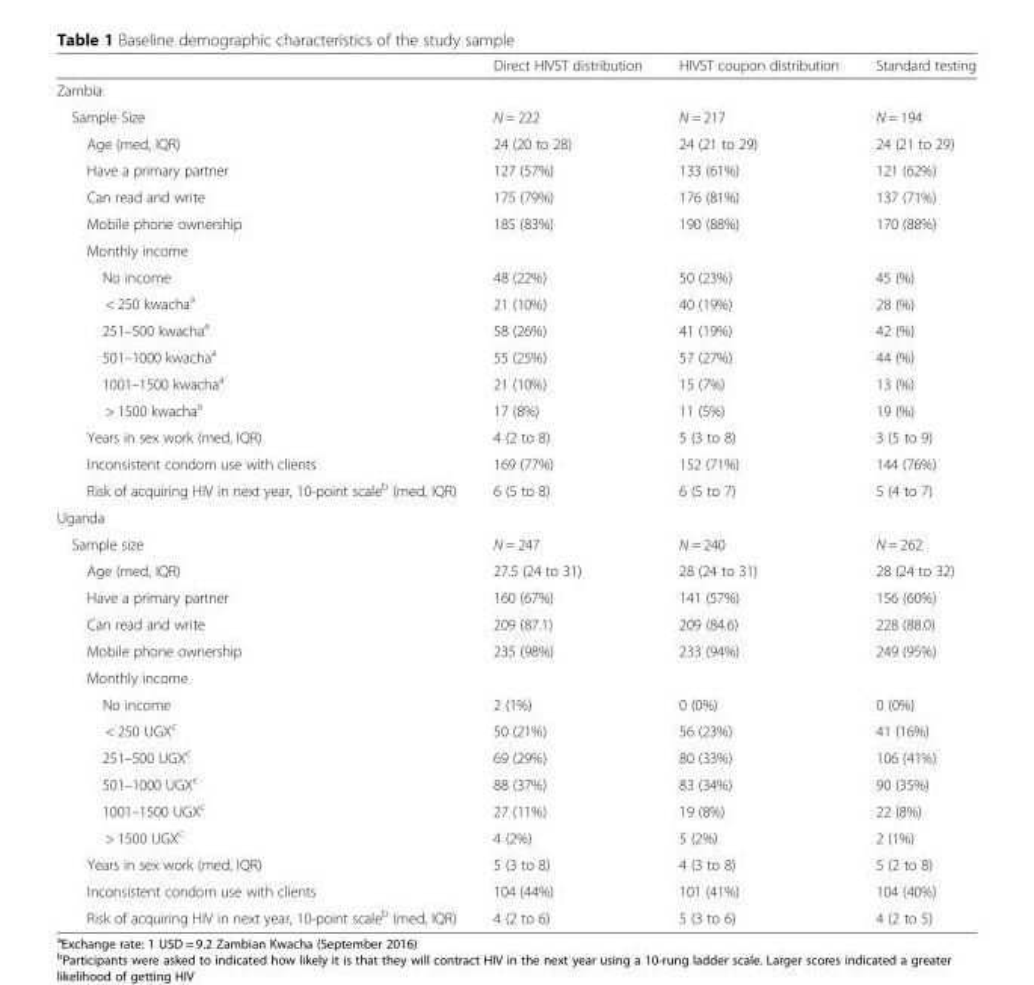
<table><thead><tr><td></td><td>Direct HIVST distribution</td><td>HIVST coupon distribution</td><td>Standard testing</td></tr></thead><tbody><tr><td colspan="4">Zambia</td></tr><tr><td>Sample Size</td><td>N = 222</td><td>N = 217</td><td>N = 194</td></tr><tr><td>Age (med, IQR)</td><td>24 (20 to 28)</td><td>24 (21 to 29)</td><td>24 (21 to 29)</td></tr><tr><td>Have a primary partner</td><td>127 (57%)</td><td>133 (61%)</td><td>121 (62%)</td></tr><tr><td>Can read and write</td><td>175 (79%)</td><td>176 (81%)</td><td>137 (71%)</td></tr><tr><td>Mobile phone ownership</td><td>185 (83%)</td><td>190 (88%)</td><td>170 (88%)</td></tr><tr><td colspan="4">Monthly income</td></tr><tr><td>No income</td><td>48 (22%)</td><td>50 (23%)</td><td>45 (%)</td></tr><tr><td>&lt; 250 kwacha<sup>a</sup></td><td>21 (10%)</td><td>40 (19%)</td><td>28 (%)</td></tr><tr><td>251–500 kwacha<sup>a</sup></td><td>58 (26%)</td><td>41 (19%)</td><td>42 (%)</td></tr><tr><td>501–1000 kwacha<sup>a</sup></td><td>55 (25%)</td><td>57 (27%)</td><td>44 (%)</td></tr><tr><td>1001–1500 kwacha<sup>a</sup></td><td>21 (10%)</td><td>15 (7%)</td><td>13 (%)</td></tr><tr><td>&gt; 1500 kwacha<sup>a</sup></td><td>17 (8%)</td><td>11 (5%)</td><td>19 (%)</td></tr><tr><td>Years in sex work (med, IQR)</td><td>4 (2 to 8)</td><td>5 (3 to 8)</td><td>3 (5 to 9)</td></tr><tr><td>Inconsistent condom use with clients</td><td>169 (77%)</td><td>152 (71%)</td><td>144 (76%)</td></tr><tr><td>Risk of acquiring HIV in next year, 10-point scale<sup>b</sup> (med, IQR)</td><td>6 (5 to 8)</td><td>6 (5 to 7)</td><td>5 (4 to 7)</td></tr><tr><td colspan="4">Uganda</td></tr><tr><td>Sample size</td><td>N = 247</td><td>N = 240</td><td>N = 262</td></tr><tr><td>Age (med, IQR)</td><td>27.5 (24 to 31)</td><td>28 (24 to 31)</td><td>28 (24 to 32)</td></tr><tr><td>Have a primary partner</td><td>160 (67%)</td><td>141 (57%)</td><td>156 (60%)</td></tr><tr><td>Can read and write</td><td>209 (87.1)</td><td>209 (84.6)</td><td>228 (88.0)</td></tr><tr><td>Mobile phone ownership</td><td>235 (98%)</td><td>233 (94%)</td><td>249 (95%)</td></tr><tr><td colspan="4">Monthly income</td></tr><tr><td>No income</td><td>2 (1%)</td><td>0 (0%)</td><td>0 (0%)</td></tr><tr><td>&lt; 250 UGX<sup>c</sup></td><td>50 (21%)</td><td>56 (23%)</td><td>41 (16%)</td></tr><tr><td>251–500 UGX<sup>c</sup></td><td>69 (29%)</td><td>80 (33%)</td><td>106 (41%)</td></tr><tr><td>501–1000 UGX<sup>c</sup></td><td>88 (37%)</td><td>83 (34%)</td><td>90 (35%)</td></tr><tr><td>1001–1500 UGX<sup>c</sup></td><td>27 (11%)</td><td>19 (8%)</td><td>22 (8%)</td></tr><tr><td>&gt; 1500 UGX<sup>c</sup></td><td>4 (2%)</td><td>5 (2%)</td><td>2 (1%)</td></tr><tr><td>Years in sex work (med, IQR)</td><td>5 (3 to 8)</td><td>4 (3 to 8)</td><td>5 (2 to 8)</td></tr><tr><td>Inconsistent condom use with clients</td><td>104 (44%)</td><td>101 (41%)</td><td>104 (40%)</td></tr><tr><td>Risk of acquiring HIV in next year, 10-point scale<sup>b</sup> (med, IQR)</td><td>4 (2 to 6)</td><td>5 (3 to 6)</td><td>4 (2 to 5)</td></tr></tbody></table>